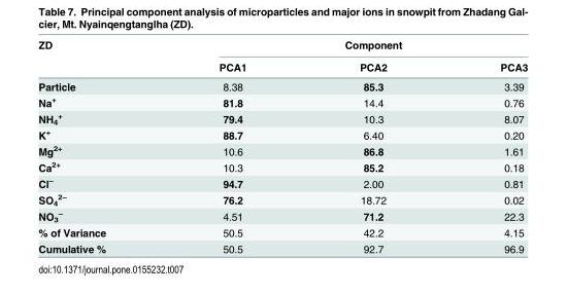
<table><thead><tr><td rowspan="2">ZD</td><td colspan="3">Component</td></tr><tr><td>PCA1</td><td>PCA2</td><td>PCA3</td></tr></thead><tbody><tr><td>Particle</td><td>8.38</td><td>85.3</td><td>3.39</td></tr><tr><td>Na<sup>+</sup></td><td>81.8</td><td>14.4</td><td>0.76</td></tr><tr><td>NH<sub>4</sub> <sup>+</sup></td><td>79.4</td><td>10.3</td><td>8.07</td></tr><tr><td>K<sup>+</sup></td><td>88.7</td><td>6.40</td><td>0.20</td></tr><tr><td>Mg<sup>2+</sup></td><td>10.6</td><td>86.8</td><td>1.61</td></tr><tr><td>Ca<sup>2+</sup></td><td>10.3</td><td>85.2</td><td>0.18</td></tr><tr><td>Cl<sup>–</sup></td><td>94.7</td><td>2.00</td><td>0.81</td></tr><tr><td>SO<sub>4</sub> <sup>2–</sup></td><td>76.2</td><td>18.72</td><td>0.02</td></tr><tr><td>NO<sub>3</sub> <sup>–</sup></td><td>4.51</td><td>71.2</td><td>22.3</td></tr><tr><td>% of Variance</td><td>50.5</td><td>42.2</td><td>4.15</td></tr><tr><td>Cumulative %</td><td>50.5</td><td>92.7</td><td>96.9</td></tr></tbody></table>